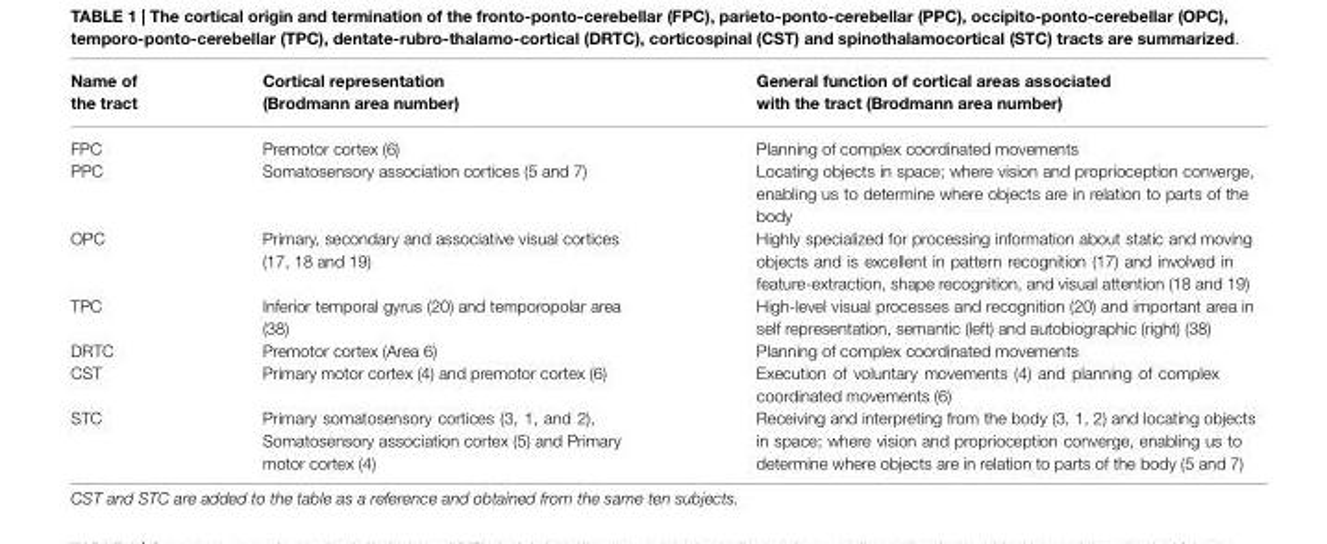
<table><thead><tr><td>Name of the tract</td><td>Cortical representation (Brodmann area number)</td><td>General function of cortical areas associated with the tract (Brodmann area number)</td></tr></thead><tbody><tr><td>FPC</td><td>Premotor cortex (6)</td><td>Planning of complex coordinated movements</td></tr><tr><td>PPC</td><td>Somatosensory association cortices (5 and 7)</td><td>Locating objects in space; where vision and proprioception converge, enabling us to determine where objects are in relation to parts of the body</td></tr><tr><td>OPC</td><td>Primary, secondary and associative visual cortices (17, 18 and 19)</td><td>Highly specialized for processing information about static and moving objects and is excellent in pattern recognition (17) and involved in feature-extraction, shape recognition, and visual attention (18 and 19)</td></tr><tr><td>TPC</td><td>Inferior temporal gyrus (20) and temporopolar area (38)</td><td>High-level visual processes and recognition (20) and important area in self representation, semantic (left) and autobiographic (right) (38)</td></tr><tr><td>DRTC</td><td>Premotor cortex (Area 6)</td><td>Planning of complex coordinated movements</td></tr><tr><td>CST</td><td>Primary motor cortex (4) and premotor cortex (6)</td><td>Execution of voluntary movements (4) and planning of complex coordinated movements (6)</td></tr><tr><td>STC</td><td>Primary somatosensory cortices (3, 1, and 2), Somatosensory association cortex (5) and Primary motor cortex (4)</td><td>Receiving and interpreting from the body (3, 1, 2) and locating objects in space; where vision and proprioception converge, enabling us to determine where objects are in relation to parts of the body (5 and 7)</td></tr></tbody></table>